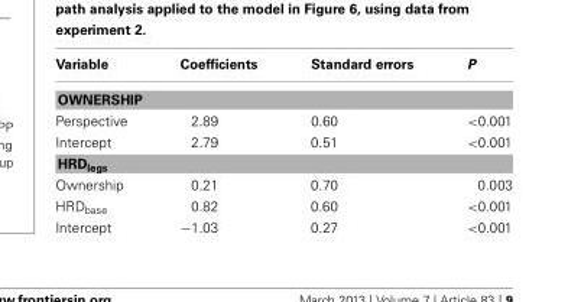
<table><thead><tr><td>Variable</td><td>Coefficients</td><td>Standard errors</td><td>P</td></tr></thead><tbody><tr><td colspan="4">OWNERSHIP</td></tr><tr><td>Perspective</td><td>2.89</td><td>0.60</td><td>&lt;0.001</td></tr><tr><td>Intercept</td><td>2.79</td><td>0.51</td><td>&lt;0.001</td></tr><tr><td colspan="4">HRD<sub>legs</sub></td></tr><tr><td>Ownership</td><td>0.21</td><td>0.70</td><td>0.003</td></tr><tr><td>HRD<sub>base</sub></td><td>0.82</td><td>0.60</td><td>&lt;0.001</td></tr><tr><td>Intercept</td><td>−1.03</td><td>0.27</td><td>&lt;0.001</td></tr></tbody></table>